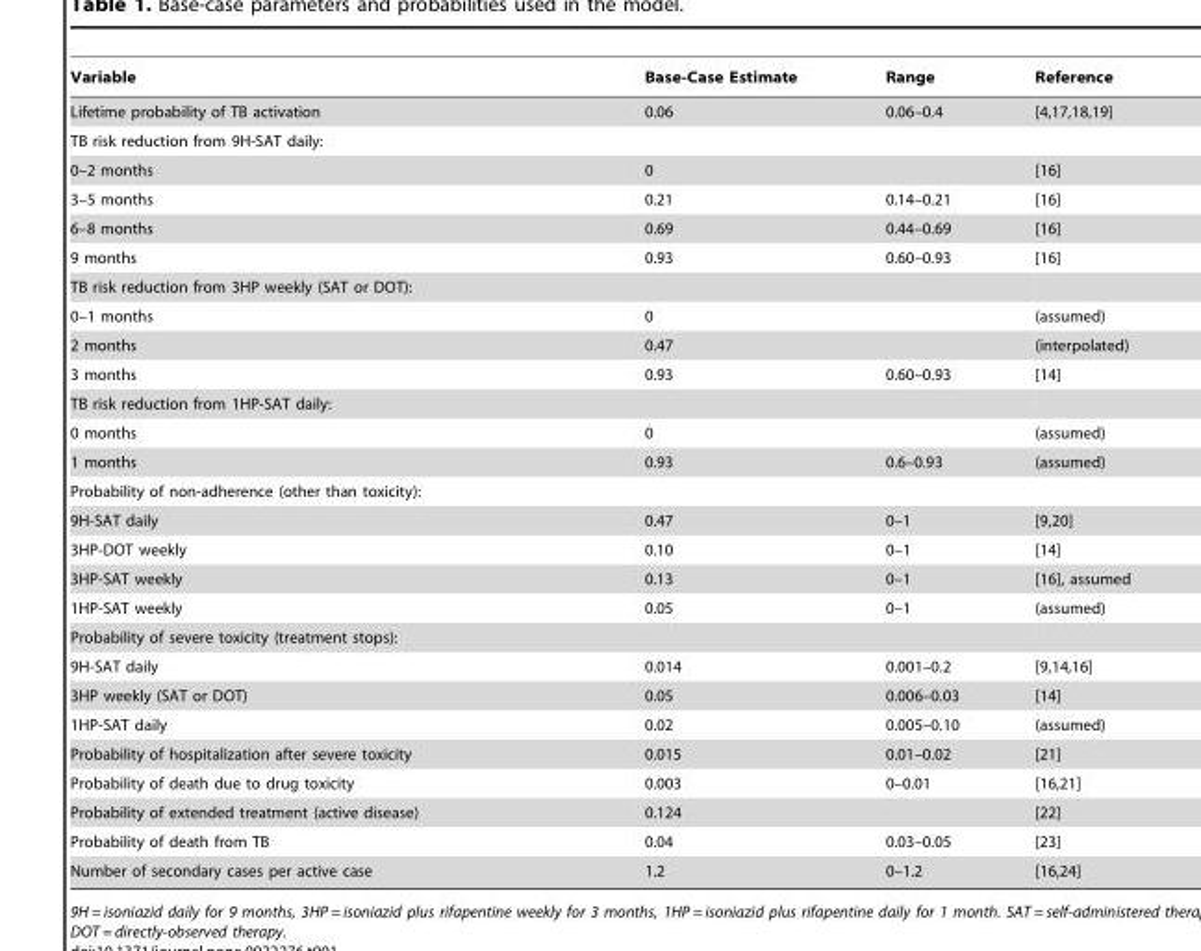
<table><thead><tr><td>Variable</td><td>Base-Case Estimate</td><td>Range</td><td>Reference</td></tr></thead><tbody><tr><td>Lifetime probability of TB activation</td><td>0.06</td><td>0.06–0.4</td><td>[4,17,18,19]</td></tr><tr><td colspan="4">TB risk reduction from 9H-SAT daily:</td></tr><tr><td>0–2 months</td><td>0</td><td></td><td>[16]</td></tr><tr><td>3–5 months</td><td>0.21</td><td>0.14–0.21</td><td>[16]</td></tr><tr><td>6–8 months</td><td>0.69</td><td>0.44–0.69</td><td>[16]</td></tr><tr><td>9 months</td><td>0.93</td><td>0.60–0.93</td><td>[16]</td></tr><tr><td colspan="4">TB risk reduction from 3HP weekly (SAT or DOT):</td></tr><tr><td>0–1 months</td><td>0</td><td></td><td>(assumed)</td></tr><tr><td>2 months</td><td>0.47</td><td></td><td>(interpolated)</td></tr><tr><td>3 months</td><td>0.93</td><td>0.60–0.93</td><td>[14]</td></tr><tr><td colspan="4">TB risk reduction from 1HP-SAT daily:</td></tr><tr><td>0 months</td><td>0</td><td></td><td>(assumed)</td></tr><tr><td>1 months</td><td>0.93</td><td>0.6–0.93</td><td>(assumed)</td></tr><tr><td colspan="4">Probability of non-adherence (other than toxicity):</td></tr><tr><td>9H-SAT daily</td><td>0.47</td><td>0–1</td><td>[9,20]</td></tr><tr><td>3HP-DOT weekly</td><td>0.10</td><td>0–1</td><td>[14]</td></tr><tr><td>3HP-SAT weekly</td><td>0.13</td><td>0–1</td><td>[16], assumed</td></tr><tr><td>1HP-SAT weekly</td><td>0.05</td><td>0–1</td><td>(assumed)</td></tr><tr><td colspan="4">Probability of severe toxicity (treatment stops):</td></tr><tr><td>9H-SAT daily</td><td>0.014</td><td>0.001–0.2</td><td>[9,14,16]</td></tr><tr><td>3HP weekly (SAT or DOT)</td><td>0.05</td><td>0.006–0.03</td><td>[14]</td></tr><tr><td>1HP-SAT daily</td><td>0.02</td><td>0.005–0.10</td><td>(assumed)</td></tr><tr><td>Probability of hospitalization after severe toxicity</td><td>0.015</td><td>0.01–0.02</td><td>[21]</td></tr><tr><td>Probability of death due to drug toxicity</td><td>0.003</td><td>0–0.01</td><td>[16,21]</td></tr><tr><td>Probability of extended treatment (active disease)</td><td>0.124</td><td></td><td>[22]</td></tr><tr><td>Probability of death from TB</td><td>0.04</td><td>0.03–0.05</td><td>[23]</td></tr><tr><td>Number of secondary cases per active case</td><td>1.2</td><td>0–1.2</td><td>[16,24]</td></tr></tbody></table>